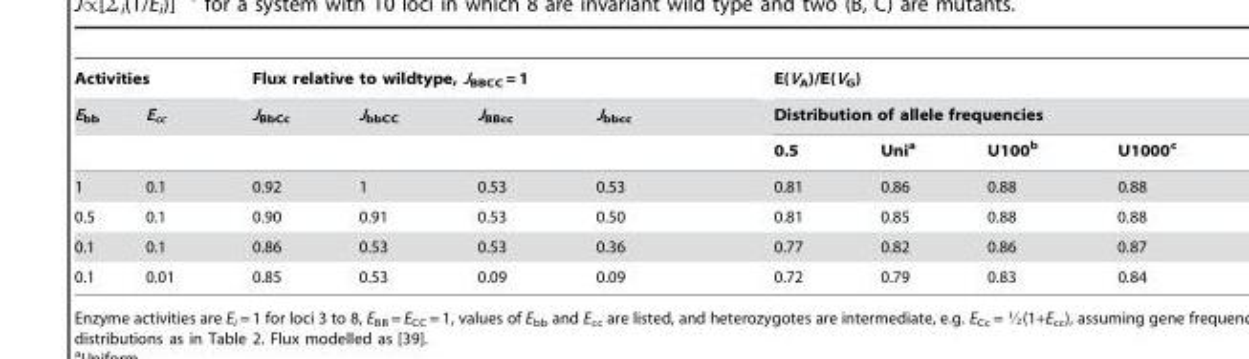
<table><thead><tr><td colspan="2">Activities</td><td colspan="4">Flux relative to wildtype, J<sub>BBCC</sub> = 1</td><td rowspan="2" colspan="4">E(V<sub>A</sub>)/E(V<sub>G</sub>) Distribution of allele frequencies</td></tr><tr><td rowspan="2">E<sub>bb</sub></td><td rowspan="2">E<sub>cc</sub></td><td rowspan="2">J<sub>BbCc</sub></td><td rowspan="2">J<sub>bbCC</sub></td><td rowspan="2">J<sub>BBcc</sub></td><td rowspan="2">Jbbcc</td></tr><tr><td>0.5</td><td>Uni<sup>a</sup></td><td>U100<sup>b</sup></td><td>U1000<sup>c</sup></td></tr></thead><tbody><tr><td>1</td><td>0.1</td><td>0.92</td><td>1</td><td>0.53</td><td>0.53</td><td>0.81</td><td>0.86</td><td>0.88</td><td>0.88</td></tr><tr><td>0.5</td><td>0.1</td><td>0.90</td><td>0.91</td><td>0.53</td><td>0.50</td><td>0.81</td><td>0.85</td><td>0.88</td><td>0.88</td></tr><tr><td>0.1</td><td>0.1</td><td>0.86</td><td>0.53</td><td>0.53</td><td>0.36</td><td>0.77</td><td>0.82</td><td>0.86</td><td>0.87</td></tr><tr><td>0.1</td><td>0.01</td><td>0.85</td><td>0.53</td><td>0.09</td><td>0.09</td><td>0.72</td><td>0.79</td><td>0.83</td><td>0.84</td></tr></tbody></table>